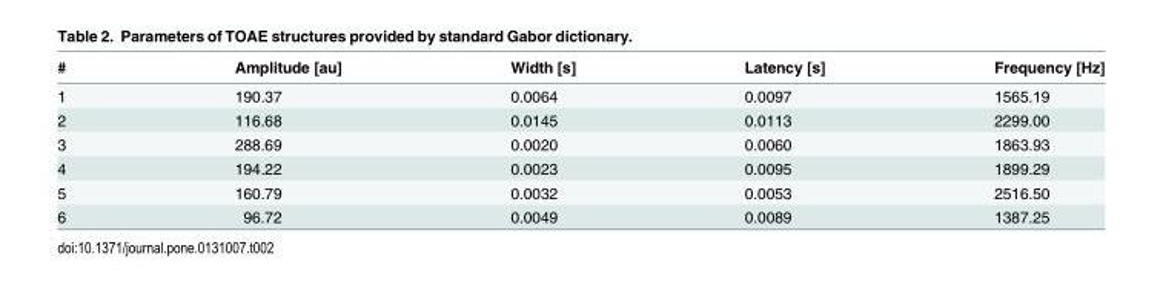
<table><thead><tr><td>#</td><td>Amplitude [au]</td><td>Width [s]</td><td>Latency [s]</td><td>Frequency [Hz]</td></tr></thead><tbody><tr><td>1</td><td>190.37</td><td>0.0064</td><td>0.0097</td><td>1565.19</td></tr><tr><td>2</td><td>116.68</td><td>0.0145</td><td>0.0113</td><td>2299.00</td></tr><tr><td>3</td><td>288.69</td><td>0.0020</td><td>0.0060</td><td>1863.93</td></tr><tr><td>4</td><td>194.22</td><td>0.0023</td><td>0.0095</td><td>1899.29</td></tr><tr><td>5</td><td>160.79</td><td>0.0032</td><td>0.0053</td><td>2516.50</td></tr><tr><td>6</td><td>96.72</td><td>0.0049</td><td>0.0089</td><td>1387.25</td></tr></tbody></table>